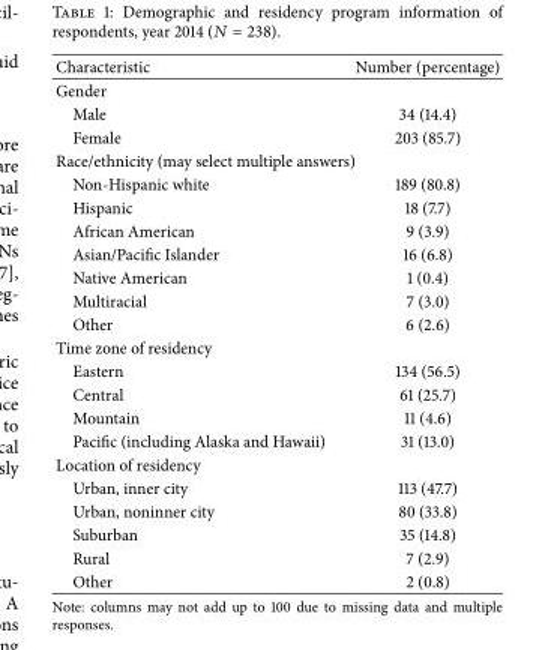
<table><thead><tr><td>Characteristic</td><td>Number (percentage)</td></tr></thead><tbody><tr><td colspan="2">Gender</td></tr><tr><td>Male</td><td>34 (14.4)</td></tr><tr><td>Female</td><td>203 (85.7)</td></tr><tr><td colspan="2">Race/ethnicity (may select multiple answers)</td></tr><tr><td>Non-Hispanic white</td><td>189 (80.8)</td></tr><tr><td>Hispanic</td><td>18 (7.7)</td></tr><tr><td>African American</td><td>9 (3.9)</td></tr><tr><td>Asian/Pacific Islander</td><td>16 (6.8)</td></tr><tr><td>Native American</td><td>1 (0.4)</td></tr><tr><td>Multiracial</td><td>7 (3.0)</td></tr><tr><td>Other</td><td>6 (2.6)</td></tr><tr><td colspan="2">Time zone of residency</td></tr><tr><td>Eastern</td><td>134 (56.5)</td></tr><tr><td>Central</td><td>61 (25.7)</td></tr><tr><td>Mountain</td><td>11 (4.6)</td></tr><tr><td>Pacific (including Alaska and Hawaii)</td><td>31 (13.0)</td></tr><tr><td colspan="2">Location of residency</td></tr><tr><td>Urban, inner city</td><td>113 (47.7)</td></tr><tr><td>Urban, noninner city</td><td>80 (33.8)</td></tr><tr><td>Suburban</td><td>35 (14.8)</td></tr><tr><td>Rural</td><td>7 (2.9)</td></tr><tr><td>Other</td><td>2 (0.8)</td></tr></tbody></table>